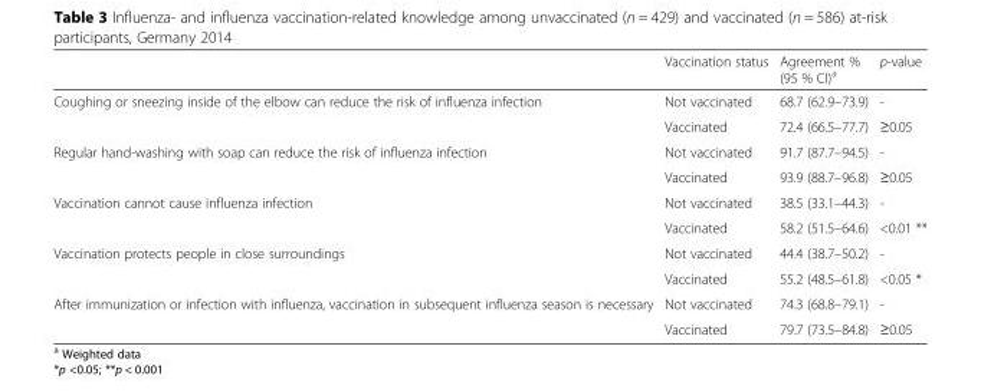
<table><thead><tr><td></td><td>Vaccination status</td><td>Agreement % (95 % CI)<sup>a</sup></td><td>p-value</td></tr></thead><tbody><tr><td rowspan="2">Coughing or sneezing inside of the elbow can reduce the risk of influenza infection</td><td>Not vaccinated</td><td>68.7 (62.9–73.9)</td><td>-</td></tr><tr><td>Vaccinated</td><td>72.4 (66.5–77.7)</td><td>≥0.05</td></tr><tr><td rowspan="2">Regular hand-washing with soap can reduce the risk of influenza infection</td><td>Not vaccinated</td><td>91.7 (87.7–94.5)</td><td>-</td></tr><tr><td>Vaccinated</td><td>93.9 (88.7–96.8)</td><td>≥0.05</td></tr><tr><td rowspan="2">Vaccination cannot cause influenza infection</td><td>Not vaccinated</td><td>38.5 (33.1–44.3)</td><td>-</td></tr><tr><td>Vaccinated</td><td>58.2 (51.5–64.6)</td><td>&lt;0.01 **</td></tr><tr><td rowspan="2">Vaccination protects people in close surroundings</td><td>Not vaccinated</td><td>44.4 (38.7–50.2)</td><td>-</td></tr><tr><td>Vaccinated</td><td>55.2 (48.5–61.8)</td><td>&lt;0.05 *</td></tr><tr><td rowspan="2">After immunization or infection with influenza, vaccination in subsequent influenza season is necessary</td><td>Not vaccinated</td><td>74.3 (68.8–79.1)</td><td>-</td></tr><tr><td>Vaccinated</td><td>79.7 (73.5–84.8)</td><td>≥0.05</td></tr></tbody></table>